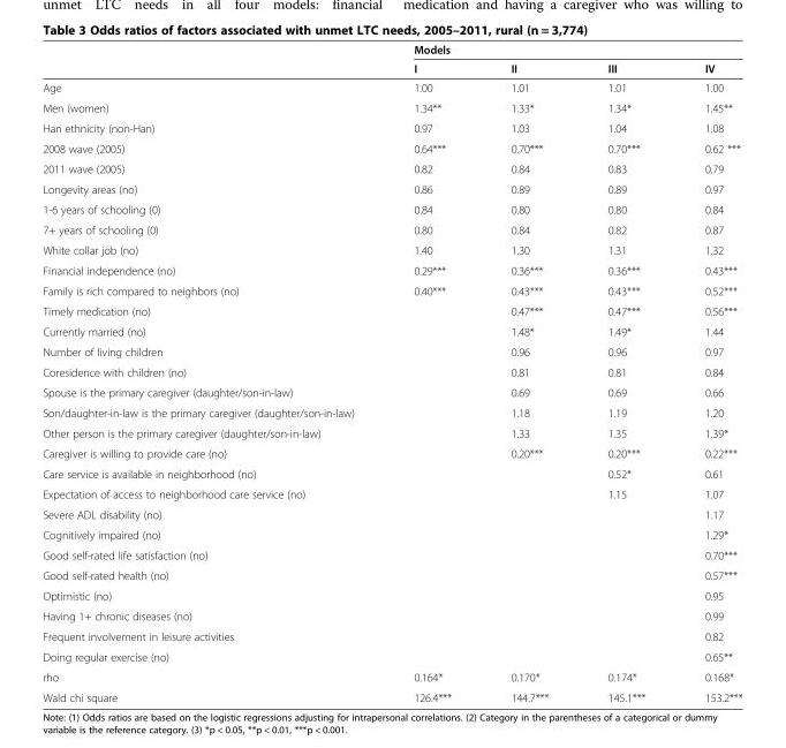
<table><thead><tr><td rowspan="2"></td><td colspan="4">Models</td></tr><tr><td>I</td><td>II</td><td>III</td><td>IV</td></tr></thead><tbody><tr><td>Age</td><td>1.00</td><td>1.01</td><td>1.01</td><td>1.00</td></tr><tr><td>Men (women)</td><td>1.34**</td><td>1.33*</td><td>1.34*</td><td>1.45**</td></tr><tr><td>Han ethnicity (non-Han)</td><td>0.97</td><td>1.03</td><td>1.04</td><td>1.08</td></tr><tr><td>2008 wave (2005)</td><td>0.64***</td><td>0.70***</td><td>0.70***</td><td>0.62 ***</td></tr><tr><td>2011 wave (2005)</td><td>0.82</td><td>0.84</td><td>0.83</td><td>0.79</td></tr><tr><td>Longevity areas (no)</td><td>0.86</td><td>0.89</td><td>0.89</td><td>0.97</td></tr><tr><td>1-6 years of schooling (0)</td><td>0.84</td><td>0.80</td><td>0.80</td><td>0.84</td></tr><tr><td>7+ years of schooling (0)</td><td>0.80</td><td>0.84</td><td>0.82</td><td>0.87</td></tr><tr><td>White collar job (no)</td><td>1.40</td><td>1.30</td><td>1.31</td><td>1.32</td></tr><tr><td>Financial independence (no)</td><td>0.29***</td><td>0.36***</td><td>0.36***</td><td>0.43***</td></tr><tr><td>Family is rich compared to neighbors (no)</td><td>0.40***</td><td>0.43***</td><td>0.43***</td><td>0.52***</td></tr><tr><td>Timely medication (no)</td><td></td><td>0.47***</td><td>0.47***</td><td>0.56***</td></tr><tr><td>Currently married (no)</td><td></td><td>1.48*</td><td>1.49*</td><td>1.44</td></tr><tr><td>Number of living children</td><td></td><td>0.96</td><td>0.96</td><td>0.97</td></tr><tr><td>Coresidence with children (no)</td><td></td><td>0.81</td><td>0.81</td><td>0.84</td></tr><tr><td>Spouse is the primary caregiver (daughter/son-in-law)</td><td></td><td>0.69</td><td>0.69</td><td>0.66</td></tr><tr><td>Son/daughter-in-law is the primary caregiver (daughter/son-in-law)</td><td></td><td>1.18</td><td>1.19</td><td>1.20</td></tr><tr><td>Other person is the primary caregiver (daughter/son-in-law)</td><td></td><td>1.33</td><td>1.35</td><td>1.39*</td></tr><tr><td>Caregiver is willing to provide care (no)</td><td></td><td>0.20***</td><td>0.20***</td><td>0.22***</td></tr><tr><td>Care service is available in neighborhood (no)</td><td></td><td></td><td>0.52*</td><td>0.61</td></tr><tr><td>Expectation of access to neighborhood care service (no)</td><td></td><td></td><td>1.15</td><td>1.07</td></tr><tr><td>Severe ADL disability (no)</td><td></td><td></td><td></td><td>1.17</td></tr><tr><td>Cognitively impaired (no)</td><td></td><td></td><td></td><td>1.29*</td></tr><tr><td>Good self-rated life satisfaction (no)</td><td></td><td></td><td></td><td>0.70***</td></tr><tr><td>Good self-rated health (no)</td><td></td><td></td><td></td><td>0.57***</td></tr><tr><td>Optimistic (no)</td><td></td><td></td><td></td><td>0.95</td></tr><tr><td>Having 1+ chronic diseases (no)</td><td></td><td></td><td></td><td>0.99</td></tr><tr><td>Frequent involvement in leisure activities</td><td></td><td></td><td></td><td>0.82</td></tr><tr><td>Doing regular exercise (no)</td><td></td><td></td><td></td><td>0.65**</td></tr><tr><td>rho</td><td>0.164*</td><td>0.170*</td><td>0.174*</td><td>0.168*</td></tr><tr><td>Wald chi square</td><td>126.4***</td><td>144.7***</td><td>145.1***</td><td>153.2***</td></tr></tbody></table>